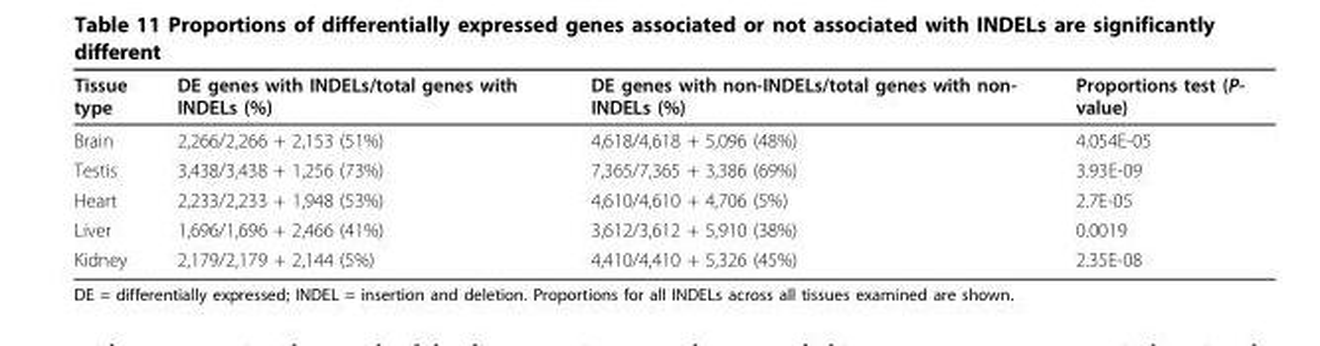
<table><thead><tr><td>Tissue type</td><td>DE genes with INDELs/total genes with INDELs (%)</td><td>DE genes with non-INDELs/total genes with non- INDELs (%)</td><td>Proportions test (P- value)</td></tr></thead><tbody><tr><td>Brain</td><td>2,266/2,266 + 2,153 (51%)</td><td>4,618/4,618 + 5,096 (48%)</td><td>4.054E-05</td></tr><tr><td>Testis</td><td>3,438/3,438 + 1,256 (73%)</td><td>7,365/7,365 + 3,386 (69%)</td><td>3.93E-09</td></tr><tr><td>Heart</td><td>2,233/2,233 + 1,948 (53%)</td><td>4,610/4,610 + 4,706 (5%)</td><td>2.7E-05</td></tr><tr><td>Liver</td><td>1,696/1,696 + 2,466 (41%)</td><td>3,612/3,612 + 5,910 (38%)</td><td>0.0019</td></tr><tr><td>Kidney</td><td>2,179/2,179 + 2,144 (5%)</td><td>4,410/4,410 + 5,326 (45%)</td><td>2.35E-08</td></tr></tbody></table>